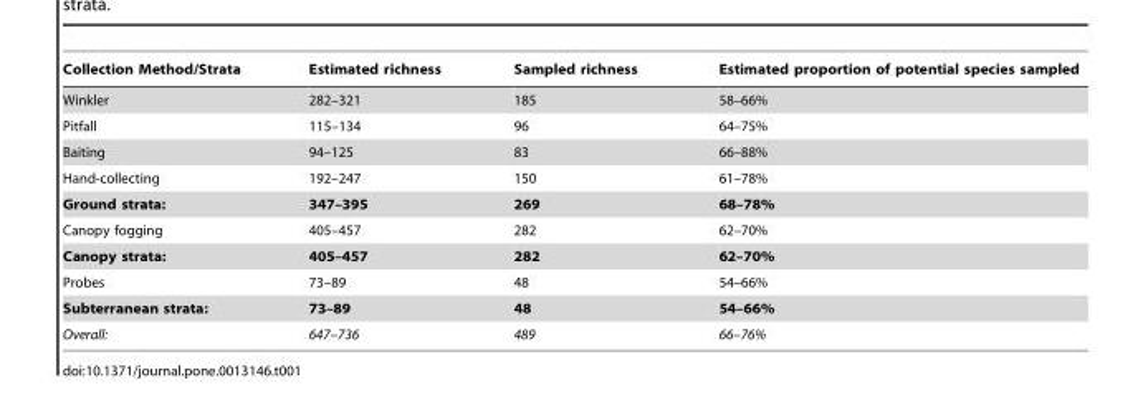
<table><thead><tr><td>Collection Method/Strata</td><td>Estimated richness</td><td>Sampled richness</td><td>Estimated proportion of potential species sampled</td></tr></thead><tbody><tr><td>Winkler</td><td>282–321</td><td>185</td><td>58–66%</td></tr><tr><td>Pitfall</td><td>115–134</td><td>96</td><td>64–75%</td></tr><tr><td>Baiting</td><td>94–125</td><td>83</td><td>66–88%</td></tr><tr><td>Hand-collecting</td><td>192–247</td><td>150</td><td>61–78%</td></tr><tr><td>Ground strata:</td><td>347–395</td><td>269</td><td>68–78%</td></tr><tr><td>Canopy fogging</td><td>405–457</td><td>282</td><td>62–70%</td></tr><tr><td>Canopy strata:</td><td>405–457</td><td>282</td><td>62–70%</td></tr><tr><td>Probes</td><td>73–89</td><td>48</td><td>54–66%</td></tr><tr><td>Subterranean strata:</td><td>73–89</td><td>48</td><td>54–66%</td></tr><tr><td>Overall:</td><td>647–736</td><td>489</td><td>66–76%</td></tr></tbody></table>